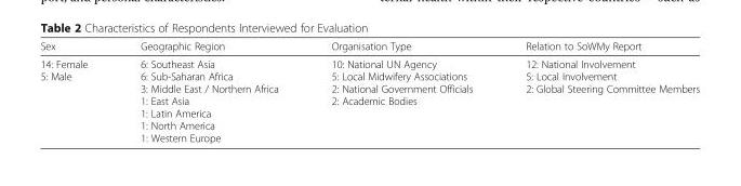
<table><thead><tr><td>Sex</td><td>Geographic Region</td><td>Organisation Type</td><td>Relation to SoWMy Report</td></tr></thead><tbody><tr><td>14: Female 5: Male</td><td>6: Southeast Asia 6: Sub-Saharan Africa 3: Middle East / Northern Africa 1: East Asia 1: Latin America 1: North America 1: Western Europe</td><td>10: National UN Agency 5: Local Midwifery Associations 2: National Government Officials 2: Academic Bodies</td><td>12: National Involvement 5: Local Involvement 2: Global Steering Committee Members</td></tr></tbody></table>